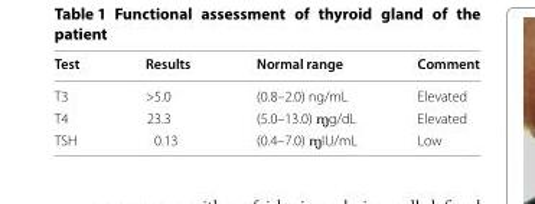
<table><thead><tr><td>Test</td><td>Results</td><td>Normal range</td><td>Comment</td></tr></thead><tbody><tr><td>T3</td><td>&gt;5.0</td><td>(0.8–2.0) ng/mL</td><td>Elevated</td></tr><tr><td>T4</td><td>23.3</td><td>(5.0–13.0) ɱg/dL</td><td>Elevated</td></tr><tr><td>TSH</td><td>0.13</td><td>(0.4–7.0) ɱIU/mL</td><td>Low</td></tr></tbody></table>